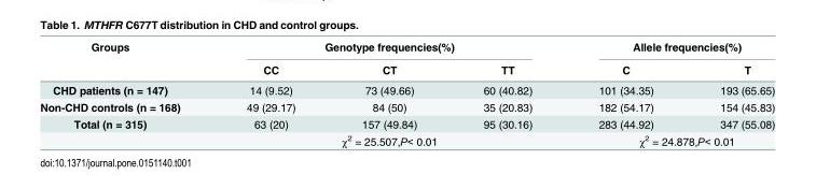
<table><thead><tr><td rowspan="2">Groups</td><td colspan="3">Genotype frequencies(%)</td><td colspan="2">Allele frequencies(%)</td></tr><tr><td>CC</td><td>CT</td><td>TT</td><td>C</td><td>T</td></tr></thead><tbody><tr><td>CHD patients (n = 147)</td><td>14 (9.52)</td><td>73 (49.66)</td><td>60 (40.82)</td><td>101 (34.35)</td><td>193 (65.65)</td></tr><tr><td>Non-CHD controls (n = 168)</td><td>49 (29.17)</td><td>84 (50)</td><td>35 (20.83)</td><td>182 (54.17)</td><td>154 (45.83)</td></tr><tr><td rowspan="2">Total (n = 315)</td><td>63 (20)</td><td>157 (49.84)</td><td>95 (30.16)</td><td>283 (44.92)</td><td>347 (55.08)</td></tr><tr><td colspan="3">χ<sup>2</sup> = 25.507,P&lt; 0.01</td><td colspan="2">χ<sup>2</sup> = 24.878,P&lt; 0.01</td></tr></tbody></table>